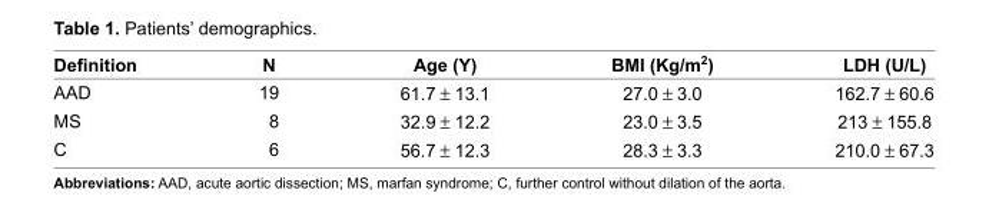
<table><thead><tr><td>Defi nition</td><td>N</td><td>Age (Y)</td><td>BMI (Kg/m<sup>2</sup>)</td><td>LDH (U/L)</td></tr></thead><tbody><tr><td>AAD</td><td>19</td><td>61.7 ± 13.1</td><td>27.0 ± 3.0</td><td>162.7 ± 60.6</td></tr><tr><td>MS</td><td>8</td><td>32.9 ± 12.2</td><td>23.0 ± 3.5</td><td>213 ± 155.8</td></tr><tr><td>C</td><td>6</td><td>56.7 ± 12.3</td><td>28.3 ± 3.3</td><td>210.0 ± 67.3</td></tr></tbody></table>